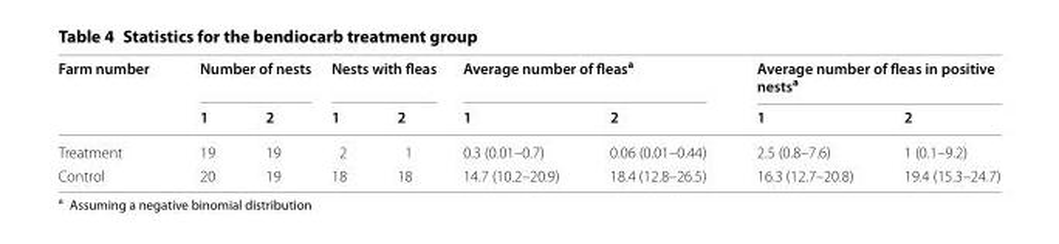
<table><thead><tr><td rowspan="2">Farm number</td><td colspan="2">Number of nests</td><td colspan="2">Nests with fleas</td><td colspan="2">Average number of fleas<sup>a</sup></td><td colspan="2">Average number of fleas in positive nests<sup>a</sup></td></tr><tr><td>1</td><td>2</td><td>1</td><td>2</td><td>1</td><td>2</td><td>1</td><td>2</td></tr></thead><tbody><tr><td>Treatment</td><td>19</td><td>19</td><td>2</td><td>1</td><td>0.3 (0.01–0.7)</td><td>0.06 (0.01–0.44)</td><td>2.5 (0.8–7.6)</td><td>1 (0.1–9.2)</td></tr><tr><td>Control</td><td>20</td><td>19</td><td>18</td><td>18</td><td>14.7 (10.2–20.9)</td><td>18.4 (12.8–26.5)</td><td>16.3 (12.7–20.8)</td><td>19.4 (15.3–24.7)</td></tr></tbody></table>